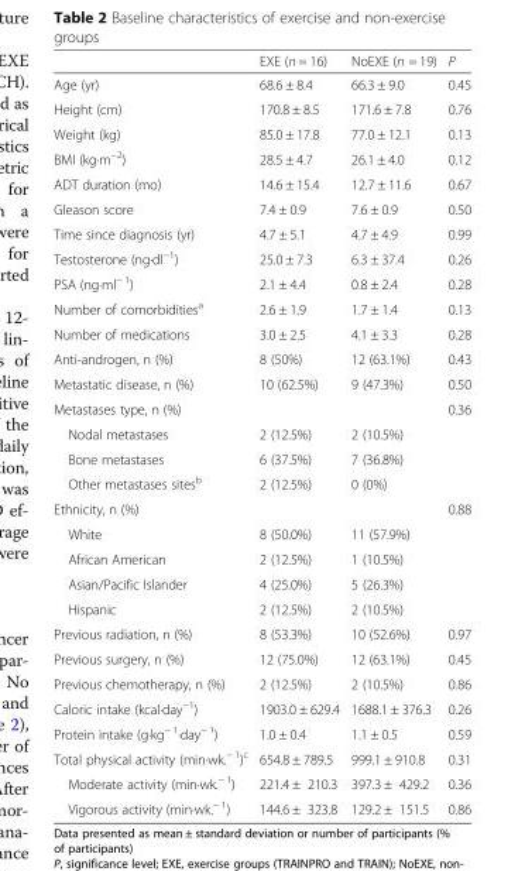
<table><thead><tr><td></td><td>EXE (n = 16)</td><td>NoEXE (n = 19)</td><td>P</td></tr></thead><tbody><tr><td>Age (yr)</td><td>68.6 ± 8.4</td><td>66.3 ± 9.0</td><td>0.45</td></tr><tr><td>Height (cm)</td><td>170.8 ± 8.5</td><td>171.6 ± 7.8</td><td>0.76</td></tr><tr><td>Weight (kg)</td><td>85.0 ± 17.8</td><td>77.0 ± 12.1</td><td>0.13</td></tr><tr><td>BMI (kg·m<sup>−2</sup>)</td><td>28.5 ± 4.7</td><td>26.1 ± 4.0</td><td>0.12</td></tr><tr><td>ADT duration (mo)</td><td>14.6 ± 15.4</td><td>12.7 ± 11.6</td><td>0.67</td></tr><tr><td>Gleason score</td><td>7.4 ± 0.9</td><td>7.6 ± 0.9</td><td>0.50</td></tr><tr><td>Time since diagnosis (yr)</td><td>4.7 ± 5.1</td><td>4.7 ± 4.9</td><td>0.99</td></tr><tr><td>Testosterone (ng·dl<sup>−1</sup>)</td><td>25.0 ± 7.3</td><td>6.3 ± 37.4</td><td>0.26</td></tr><tr><td>PSA (ng·ml<sup>− 1</sup>)</td><td>2.1 ± 4.4</td><td>0.8 ± 2.4</td><td>0.28</td></tr><tr><td>Number of comorbidities<sup>a</sup></td><td>2.6 ± 1.9</td><td>1.7 ± 1.4</td><td>0.13</td></tr><tr><td>Number of medications</td><td>3.0 ± 2.5</td><td>4.1 ± 3.3</td><td>0.28</td></tr><tr><td>Anti-androgen, n (%)</td><td>8 (50%)</td><td>12 (63.1%)</td><td>0.43</td></tr><tr><td>Metastatic disease, n (%)</td><td>10 (62.5%)</td><td>9 (47.3%)</td><td>0.50</td></tr><tr><td>Metastases type, n (%)</td><td></td><td></td><td>0.36</td></tr><tr><td>Nodal metastases</td><td>2 (12.5%)</td><td>2 (10.5%)</td><td></td></tr><tr><td>Bone metastases</td><td>6 (37.5%)</td><td>7 (36.8%)</td><td></td></tr><tr><td>Other metastases sites<sup>b</sup></td><td>2 (12.5%)</td><td>0 (0%)</td><td></td></tr><tr><td>Ethnicity, n (%)</td><td></td><td></td><td>0.88</td></tr><tr><td>White</td><td>8 (50.0%)</td><td>11 (57.9%)</td><td></td></tr><tr><td>African American</td><td>2 (12.5%)</td><td>1 (10.5%)</td><td></td></tr><tr><td>Asian/Pacific Islander</td><td>4 (25.0%)</td><td>5 (26.3%)</td><td></td></tr><tr><td>Hispanic</td><td>2 (12.5%)</td><td>2 (10.5%)</td><td></td></tr><tr><td>Previous radiation, n (%)</td><td>8 (53.3%)</td><td>10 (52.6%)</td><td>0.97</td></tr><tr><td>Previous surgery, n (%)</td><td>12 (75.0%)</td><td>12 (63.1%)</td><td>0.45</td></tr><tr><td>Previous chemotherapy, n (%)</td><td>2 (12.5%)</td><td>2 (10.5%)</td><td>0.86</td></tr><tr><td>Caloric intake (kcal·day<sup>−1</sup>)</td><td>1903.0 ± 629.4</td><td>1688.1 ± 376.3</td><td>0.26</td></tr><tr><td>Protein intake (g·kg<sup>− 1</sup>·day<sup>− 1</sup>)</td><td>1.0 ± 0.4</td><td>1.1 ± 0.5</td><td>0.59</td></tr><tr><td>Total physical activity (min·wk.<sup>− 1</sup>)<sup>c</sup></td><td>654.8 ± 789.5</td><td>999.1 ± 910.8</td><td>0.31</td></tr><tr><td>Moderate activity (min·wk.<sup>− 1</sup>)</td><td>221.4 ± 210.3</td><td>397.3 ± 429.2</td><td>0.36</td></tr><tr><td>Vigorous activity (min·wk.<sup>− 1</sup>)</td><td>144.6 ± 323.8</td><td>129.2 ± 151.5</td><td>0.86</td></tr></tbody></table>